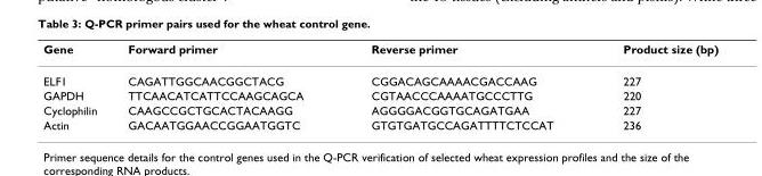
<table><thead><tr><td>Gene</td><td>Forward primer</td><td>Reverse primer</td><td>Product size (bp)</td></tr></thead><tbody><tr><td>ELF1</td><td>CAGATTGGCAACGGCTACG</td><td>CGGACAGCAAAACGACCAAG</td><td>227</td></tr><tr><td>GAPDH</td><td>TTCAACATCATTCCAAGCAGCA</td><td>CGTAACCCAAAATGCCCTTG</td><td>220</td></tr><tr><td>Cyclophilin</td><td>CAAGCCGCTGCACTACAAGG</td><td>AGGGGACGGTGCAGATGAA</td><td>227</td></tr><tr><td>Actin</td><td>GACAATGGAACCGGAATGGTC</td><td>GTGTGATGCCAGATTTTCTCCAT</td><td>236</td></tr></tbody></table>